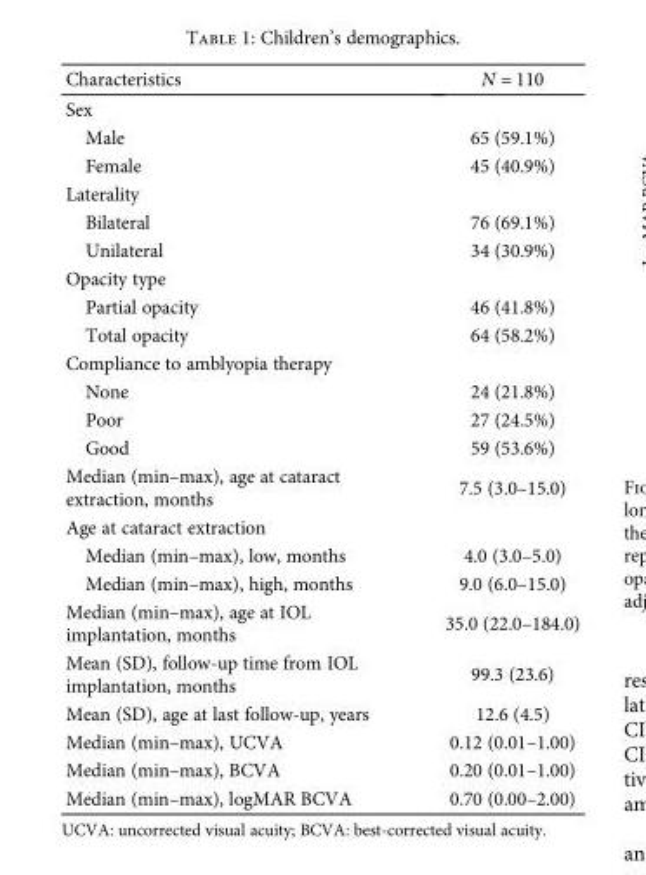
<table><thead><tr><td>Characteristics</td><td>N = 110</td></tr></thead><tbody><tr><td colspan="2">Sex</td></tr><tr><td>Male</td><td>65 (59.1%)</td></tr><tr><td>Female</td><td>45 (40.9%)</td></tr><tr><td colspan="2">Laterality</td></tr><tr><td>Bilateral</td><td>76 (69.1%)</td></tr><tr><td>Unilateral</td><td>34 (30.9%)</td></tr><tr><td colspan="2">Opacity type</td></tr><tr><td>Partial opacity</td><td>46 (41.8%)</td></tr><tr><td>Total opacity</td><td>64 (58.2%)</td></tr><tr><td colspan="2">Compliance to amblyopia therapy</td></tr><tr><td>None</td><td>24 (21.8%)</td></tr><tr><td>Poor</td><td>27 (24.5%)</td></tr><tr><td>Good</td><td>59 (53.6%)</td></tr><tr><td>Median (min–max), age at cataract extraction, months</td><td>7.5 (3.0–15.0)</td></tr><tr><td colspan="2">Age at cataract extraction</td></tr><tr><td>Median (min–max), low, months</td><td>4.0 (3.0–5.0)</td></tr><tr><td>Median (min–max), high, months</td><td>9.0 (6.0–15.0)</td></tr><tr><td>Median (min–max), age at IOL implantation, months</td><td>35.0 (22.0–184.0)</td></tr><tr><td>Mean (SD), follow-up time from IOL implantation, months</td><td>99.3 (23.6)</td></tr><tr><td>Mean (SD), age at last follow-up, years</td><td>12.6 (4.5)</td></tr><tr><td>Median (min–max), UCVA</td><td>0.12 (0.01–1.00)</td></tr><tr><td>Median (min–max), BCVA</td><td>0.20 (0.01–1.00)</td></tr><tr><td>Median (min–max), logMAR BCVA</td><td>0.70 (0.00–2.00)</td></tr></tbody></table>